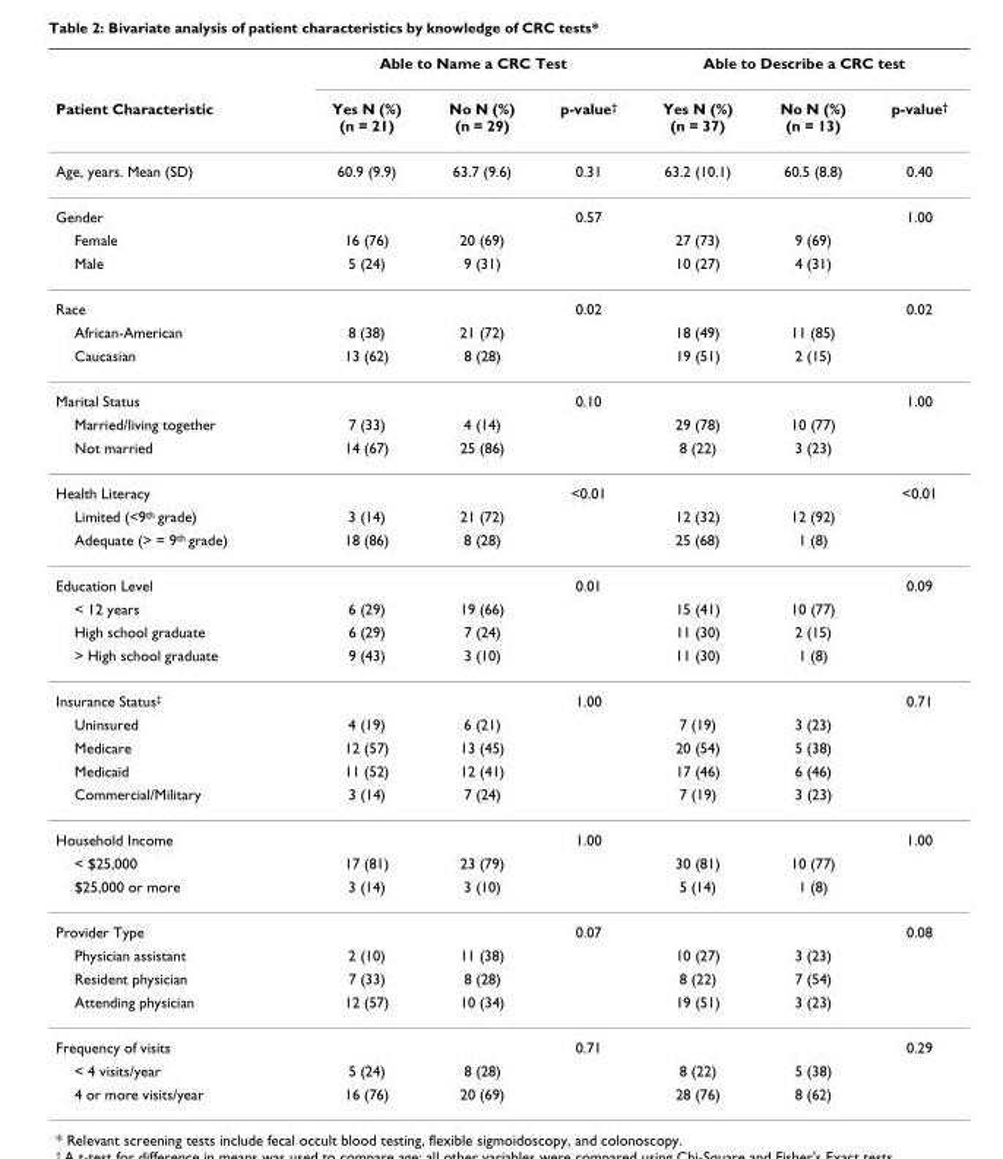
<table><thead><tr><td rowspan="2">Patient Characteristic</td><td colspan="3">Able to Name a CRC Test</td><td colspan="3">Able to Describe a CRC test</td></tr><tr><td>Yes N (%) (n = 21)</td><td>No N (%) (n = 29)</td><td>p-value<sup>†</sup></td><td>Yes N (%) (n = 37)</td><td>No N (%) (n = 13)</td><td>p-value<sup>†</sup></td></tr></thead><tbody><tr><td>Age, years. Mean (SD)</td><td>60.9 (9.9)</td><td>63.7 (9.6)</td><td>0.31</td><td>63.2 (10.1)</td><td>60.5 (8.8)</td><td>0.40</td></tr><tr><td>Gender</td><td></td><td></td><td>0.57</td><td></td><td></td><td>1.00</td></tr><tr><td>Female</td><td>16 (76)</td><td>20 (69)</td><td></td><td>27 (73)</td><td>9 (69)</td><td></td></tr><tr><td>Male</td><td>5 (24)</td><td>9 (31)</td><td></td><td>10 (27)</td><td>4 (31)</td><td></td></tr><tr><td>Race</td><td></td><td></td><td>0.02</td><td></td><td></td><td>0.02</td></tr><tr><td>African-American</td><td>8 (38)</td><td>21 (72)</td><td></td><td>18 (49)</td><td>11 (85)</td><td></td></tr><tr><td>Caucasian</td><td>13 (62)</td><td>8 (28)</td><td></td><td>19 (51)</td><td>2 (15)</td><td></td></tr><tr><td>Marital Status</td><td></td><td></td><td>0.10</td><td></td><td></td><td>1.00</td></tr><tr><td>Married/living together</td><td>7 (33)</td><td>4 (14)</td><td></td><td>29 (78)</td><td>10 (77)</td><td></td></tr><tr><td>Not married</td><td>14 (67)</td><td>25 (86)</td><td></td><td>8 (22)</td><td>3 (23)</td><td></td></tr><tr><td>Health Literacy</td><td></td><td></td><td>&lt;0.01</td><td></td><td></td><td>&lt;0.01</td></tr><tr><td>Limited (&lt;9<sup>th</sup> grade)</td><td>3 (14)</td><td>21 (72)</td><td></td><td>12 (32)</td><td>12 (92)</td><td></td></tr><tr><td>Adequate (&gt; = 9<sup>th</sup> grade)</td><td>18 (86)</td><td>8 (28)</td><td></td><td>25 (68)</td><td>1 (8)</td><td></td></tr><tr><td>Education Level</td><td></td><td></td><td>0.01</td><td></td><td></td><td>0.09</td></tr><tr><td>&lt; 12 years</td><td>6 (29)</td><td>19 (66)</td><td></td><td>15 (41)</td><td>10 (77)</td><td></td></tr><tr><td>High school graduate</td><td>6 (29)</td><td>7 (24)</td><td></td><td>11 (30)</td><td>2 (15)</td><td></td></tr><tr><td>&gt; High school graduate</td><td>9 (43)</td><td>3 (10)</td><td></td><td>11 (30)</td><td>1 (8)</td><td></td></tr><tr><td>Insurance Status<sup>‡</sup></td><td></td><td></td><td>1.00</td><td></td><td></td><td>0.71</td></tr><tr><td>Uninsured</td><td>4 (19)</td><td>6 (21)</td><td></td><td>7 (19)</td><td>3 (23)</td><td></td></tr><tr><td>Medicare</td><td>12 (57)</td><td>13 (45)</td><td></td><td>20 (54)</td><td>5 (38)</td><td></td></tr><tr><td>Medicaid</td><td>11 (52)</td><td>12 (41)</td><td></td><td>17 (46)</td><td>6 (46)</td><td></td></tr><tr><td>Commercial/Military</td><td>3 (14)</td><td>7 (24)</td><td></td><td>7 (19)</td><td>3 (23)</td><td></td></tr><tr><td>Household Income</td><td></td><td></td><td>1.00</td><td></td><td></td><td>1.00</td></tr><tr><td>&lt; $25,000</td><td>17 (81)</td><td>23 (79)</td><td></td><td>30 (81)</td><td>10 (77)</td><td></td></tr><tr><td>$25,000 or more</td><td>3 (14)</td><td>3 (10)</td><td></td><td>5 (14)</td><td>1 (8)</td><td></td></tr><tr><td>Provider Type</td><td></td><td></td><td>0.07</td><td></td><td></td><td>0.08</td></tr><tr><td>Physician assistant</td><td>2 (10)</td><td>11 (38)</td><td></td><td>10 (27)</td><td>3 (23)</td><td></td></tr><tr><td>Resident physician</td><td>7 (33)</td><td>8 (28)</td><td></td><td>8 (22)</td><td>7 (54)</td><td></td></tr><tr><td>Attending physician</td><td>12 (57)</td><td>10 (34)</td><td></td><td>19 (51)</td><td>3 (23)</td><td></td></tr><tr><td>Frequency of visits</td><td></td><td></td><td>0.71</td><td></td><td></td><td>0.29</td></tr><tr><td>&lt; 4 visits/year</td><td>5 (24)</td><td>8 (28)</td><td></td><td>8 (22)</td><td>5 (38)</td><td></td></tr><tr><td>4 or more visits/year</td><td>16 (76)</td><td>20 (69)</td><td></td><td>28 (76)</td><td>8 (62)</td><td></td></tr></tbody></table>